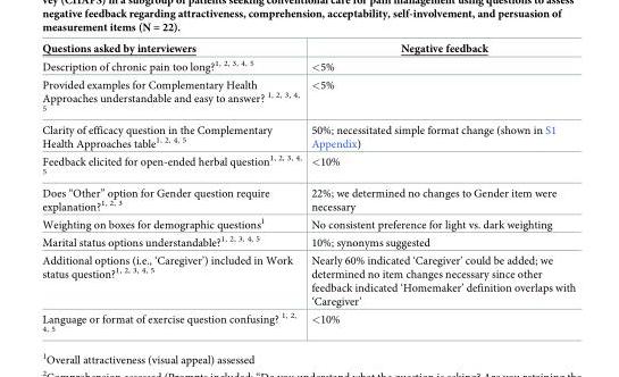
<table><thead><tr><td>Questions asked by interviewers</td><td>Negative feedback</td></tr></thead><tbody><tr><td>Description of chronic pain too long?<sup>1, 2, 3, 4, 5</sup></td><td>&lt;5%</td></tr><tr><td>Provided examples for Complementary Health Approaches understandable and easy to answer? <sup>1, 2, 3, 4, 5</sup></td><td>&lt;5%</td></tr><tr><td>Clarity of efficacy question in the Complementary Health Approaches table<sup>1, 2, 4, 5</sup></td><td>50%; necessitated simple format change (shown in S1 Appendix)</td></tr><tr><td>Feedback elicited for open-ended herbal question<sup>1, 2, 3, 4, 5</sup></td><td>&lt;10%</td></tr><tr><td>Does “Other” option for Gender question require explanation?<sup>1, 2, 3</sup></td><td>22%; we determined no changes to Gender item were necessary</td></tr><tr><td>Weighting on boxes for demographic questions<sup>1</sup></td><td>No consistent preference for light vs. dark weighting</td></tr><tr><td>Marital status options understandable?<sup>1, 2, 3, 4, 5</sup></td><td>10%; synonyms suggested</td></tr><tr><td>Additional options (i.e., ‘Caregiver’) included in Work status question?<sup>1, 2, 3, 4, 5</sup></td><td>Nearly 60% indicated ‘Caregiver’ could be added; we determined no item changes necessary since other feedback indicated ‘Homemaker’ definition overlaps with ‘Caregiver’</td></tr><tr><td>Language or format of exercise question confusing? <sup>1, 2, 4, 5</sup></td><td>&lt;10%</td></tr></tbody></table>